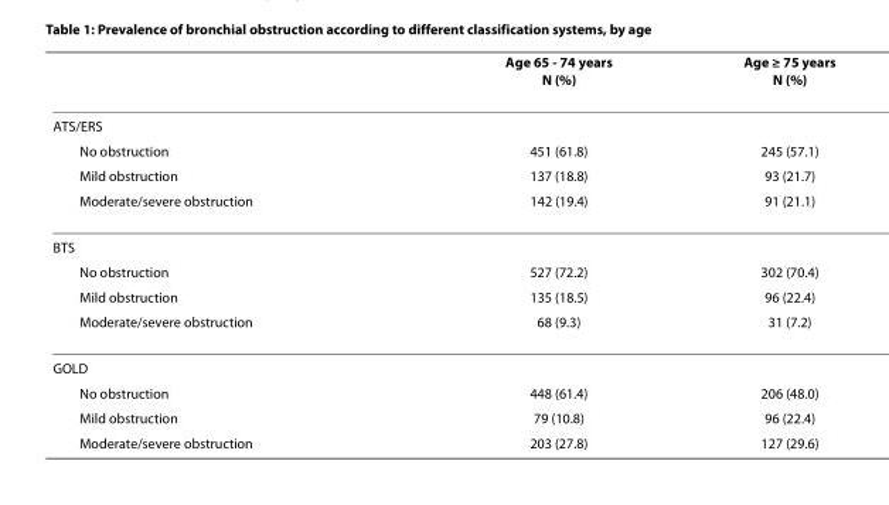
<table><thead><tr><td></td><td>Age 65 - 74 years N (%)</td><td>Age ≥ 75 years N (%)</td></tr></thead><tbody><tr><td colspan="3">ATS/ERS</td></tr><tr><td>No obstruction</td><td>451 (61.8)</td><td>245 (57.1)</td></tr><tr><td>Mild obstruction</td><td>137 (18.8)</td><td>93 (21.7)</td></tr><tr><td>Moderate/severe obstruction</td><td>142 (19.4)</td><td>91 (21.1)</td></tr><tr><td colspan="3">BTS</td></tr><tr><td>No obstruction</td><td>527 (72.2)</td><td>302 (70.4)</td></tr><tr><td>Mild obstruction</td><td>135 (18.5)</td><td>96 (22.4)</td></tr><tr><td>Moderate/severe obstruction</td><td>68 (9.3)</td><td>31 (7.2)</td></tr><tr><td colspan="3">GOLD</td></tr><tr><td>No obstruction</td><td>448 (61.4)</td><td>206 (48.0)</td></tr><tr><td>Mild obstruction</td><td>79 (10.8)</td><td>96 (22.4)</td></tr><tr><td>Moderate/severe obstruction</td><td>203 (27.8)</td><td>127 (29.6)</td></tr></tbody></table>